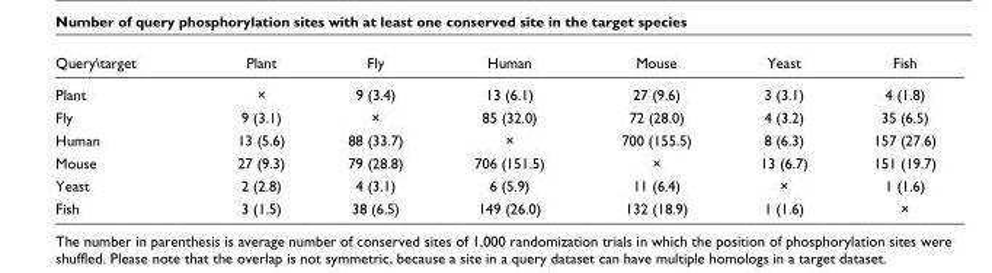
<table><thead><tr><td>Query\target</td><td>Plant</td><td>Fly</td><td>Human</td><td>Mouse</td><td>Yeast</td><td>Fish</td></tr></thead><tbody><tr><td>Plant</td><td>×</td><td>9 (3.4)</td><td>13 (6.1)</td><td>27 (9.6)</td><td>3 (3.1)</td><td>4 (1.8)</td></tr><tr><td>Fly</td><td>9 (3.1)</td><td>×</td><td>85 (32.0)</td><td>72 (28.0)</td><td>4 (3.2)</td><td>35 (6.5)</td></tr><tr><td>Human</td><td>13 (5.6)</td><td>88 (33.7)</td><td>×</td><td>700 (155.5)</td><td>8 (6.3)</td><td>157 (27.6)</td></tr><tr><td>Mouse</td><td>27 (9.3)</td><td>79 (28.8)</td><td>706 (151.5)</td><td>×</td><td>13 (6.7)</td><td>151 (19.7)</td></tr><tr><td>Yeast</td><td>2 (2.8)</td><td>4 (3.1)</td><td>6 (5.9)</td><td>11 (6.4)</td><td>×</td><td>1 (1.6)</td></tr><tr><td>Fish</td><td>3 (1.5)</td><td>38 (6.5)</td><td>149 (26.0)</td><td>132 (18.9)</td><td>1 (1.6)</td><td>×</td></tr></tbody></table>